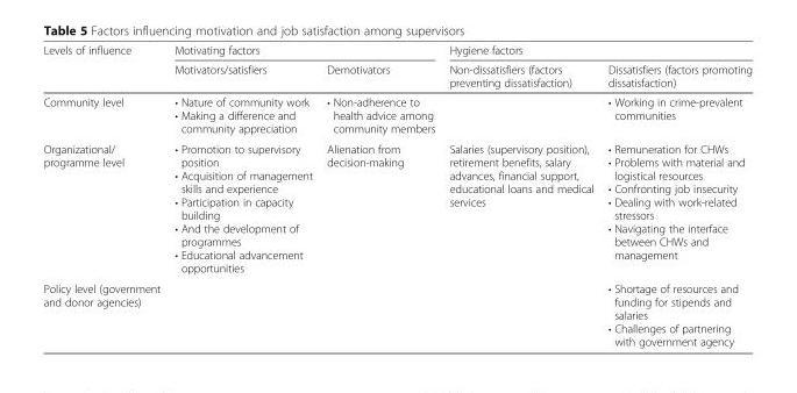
<table><thead><tr><td rowspan="2">Levels of influence</td><td colspan="2">Motivating factors</td><td colspan="2">Hygiene factors</td></tr><tr><td>Motivators/satisfiers</td><td>Demotivators</td><td>Non-dissatisfiers (factors preventing dissatisfaction)</td><td>Dissatisfiers (factors promoting dissatisfaction)</td></tr></thead><tbody><tr><td>Community level</td><td>• Nature of community work • Making a difference and community appreciation</td><td>• Non-adherence to health advice among community members</td><td></td><td>• Working in crime-prevalent communities</td></tr><tr><td>Organizational/ programme level</td><td>• Promotion to supervisory position • Acquisition of management skills and experience • Participation in capacity building • And the development of programmes • Educational advancement opportunities</td><td>Alienation from decision-making</td><td>Salaries (supervisory position), retirement benefits, salary advances, financial support, educational loans and medical services</td><td>• Remuneration for CHWs • Problems with material and logistical resources • Confronting job insecurity • Dealing with work-related stressors • Navigating the interface between CHWs and management</td></tr><tr><td>Policy level (government and donor agencies)</td><td></td><td></td><td></td><td>• Shortage of resources and funding for stipends and salaries • Challenges of partnering with government agency</td></tr></tbody></table>